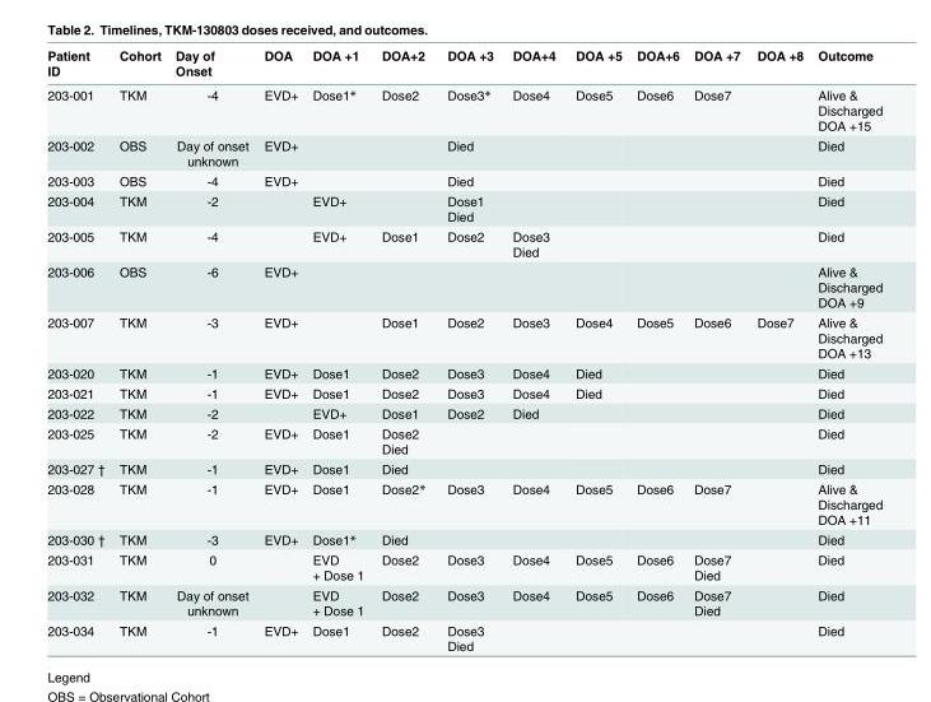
<table><thead><tr><td>Patient ID</td><td>Cohort</td><td>Day of Onset</td><td>DOA</td><td>DOA +1</td><td>DOA+2</td><td>DOA +3</td><td>DOA+4</td><td>DOA +5</td><td>DOA+6</td><td>DOA +7</td><td>DOA +8</td><td>Outcome</td></tr></thead><tbody><tr><td>203-001</td><td>TKM</td><td>-4</td><td>EVD+</td><td>Dose1*</td><td>Dose2</td><td>Dose3*</td><td>Dose4</td><td>Dose5</td><td>Dose6</td><td>Dose7</td><td></td><td>Alive &amp; Discharged DOA +15</td></tr><tr><td>203-002</td><td>OBS</td><td>Day of onset unknown</td><td>EVD+</td><td></td><td></td><td>Died</td><td></td><td></td><td></td><td></td><td></td><td>Died</td></tr><tr><td>203-003</td><td>OBS</td><td>-4</td><td>EVD+</td><td></td><td></td><td>Died</td><td></td><td></td><td></td><td></td><td></td><td>Died</td></tr><tr><td>203-004</td><td>TKM</td><td>-2</td><td></td><td>EVD+</td><td></td><td>Dose1 Died</td><td></td><td></td><td></td><td></td><td></td><td>Died</td></tr><tr><td>203-005</td><td>TKM</td><td>-4</td><td></td><td>EVD+</td><td>Dose1</td><td>Dose2</td><td>Dose3 Died</td><td></td><td></td><td></td><td></td><td>Died</td></tr><tr><td>203-006</td><td>OBS</td><td>-6</td><td>EVD+</td><td></td><td></td><td></td><td></td><td></td><td></td><td></td><td></td><td>Alive &amp; Discharged DOA +9</td></tr><tr><td>203-007</td><td>TKM</td><td>-3</td><td>EVD+</td><td></td><td>Dose1</td><td>Dose2</td><td>Dose3</td><td>Dose4</td><td>Dose5</td><td>Dose6</td><td>Dose7</td><td>Alive &amp; Discharged DOA +13</td></tr><tr><td>203-020</td><td>TKM</td><td>-1</td><td>EVD+</td><td>Dose1</td><td>Dose2</td><td>Dose3</td><td>Dose4</td><td>Died</td><td></td><td></td><td></td><td>Died</td></tr><tr><td>203-021</td><td>TKM</td><td>-1</td><td>EVD+</td><td>Dose1</td><td>Dose2</td><td>Dose3</td><td>Dose4</td><td>Died</td><td></td><td></td><td></td><td>Died</td></tr><tr><td>203-022</td><td>TKM</td><td>-2</td><td></td><td>EVD+</td><td>Dose1</td><td>Dose2</td><td>Died</td><td></td><td></td><td></td><td></td><td>Died</td></tr><tr><td>203-025</td><td>TKM</td><td>-2</td><td>EVD+</td><td>Dose1</td><td>Dose2 Died</td><td></td><td></td><td></td><td></td><td></td><td></td><td>Died</td></tr><tr><td>203-027 †</td><td>TKM</td><td>-1</td><td>EVD+</td><td>Dose1</td><td>Died</td><td></td><td></td><td></td><td></td><td></td><td></td><td>Died</td></tr><tr><td>203-028</td><td>TKM</td><td>-1</td><td>EVD+</td><td>Dose1</td><td>Dose2*</td><td>Dose3</td><td>Dose4</td><td>Dose5</td><td>Dose6</td><td>Dose7</td><td></td><td>Alive &amp; Discharged DOA +11</td></tr><tr><td>203-030 †</td><td>TKM</td><td>-3</td><td>EVD+</td><td>Dose1*</td><td>Died</td><td></td><td></td><td></td><td></td><td></td><td></td><td>Died</td></tr><tr><td>203-031</td><td>TKM</td><td>0</td><td></td><td>EVD + Dose 1</td><td>Dose2</td><td>Dose3</td><td>Dose4</td><td>Dose5</td><td>Dose6</td><td>Dose7 Died</td><td></td><td>Died</td></tr><tr><td>203-032</td><td>TKM</td><td>Day of onset unknown</td><td></td><td>EVD + Dose 1</td><td>Dose2</td><td>Dose3</td><td>Dose4</td><td>Dose5</td><td>Dose6</td><td>Dose7 Died</td><td></td><td>Died</td></tr><tr><td>203-034</td><td>TKM</td><td>-1</td><td>EVD+</td><td>Dose1</td><td>Dose2</td><td>Dose3 Died</td><td></td><td></td><td></td><td></td><td></td><td>Died</td></tr></tbody></table>